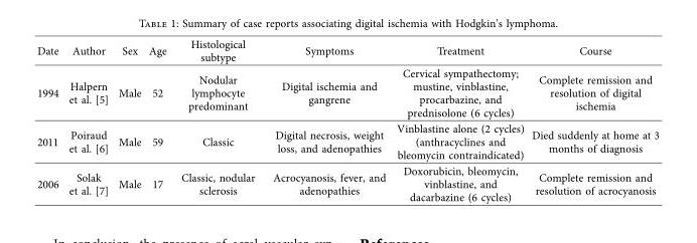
<table><thead><tr><td>Date</td><td>Author</td><td>Sex</td><td>Age</td><td>Histological subtype</td><td>Symptoms</td><td>Treatment</td><td>Course</td></tr></thead><tbody><tr><td>1994</td><td>Halpern et al. [5]</td><td>Male</td><td>52</td><td>Nodular lymphocyte predominant</td><td>Digital ischemia and gangrene</td><td>Cervical sympathectomy; mustine, vinblastine, procarbazine, and prednisolone (6 cycles)</td><td>Complete remission and resolution of digital ischemia</td></tr><tr><td>2011</td><td>Poiraud et al. [6]</td><td>Male</td><td>59</td><td>Classic</td><td>Digital necrosis, weight loss, and adenopathies</td><td>Vinblastine alone (2 cycles) (anthracyclines and bleomycin contraindicated)</td><td>Died suddenly at home at 3 months of diagnosis</td></tr><tr><td>2006</td><td>Solak et al. [7]</td><td>Male</td><td>17</td><td>Classic, nodular sclerosis</td><td>Acrocyanosis, fever, and adenopathies</td><td>Doxorubicin, bleomycin, vinblastine, and dacarbazine (6 cycles)</td><td>Complete remission and resolution of acrocyanosis</td></tr></tbody></table>